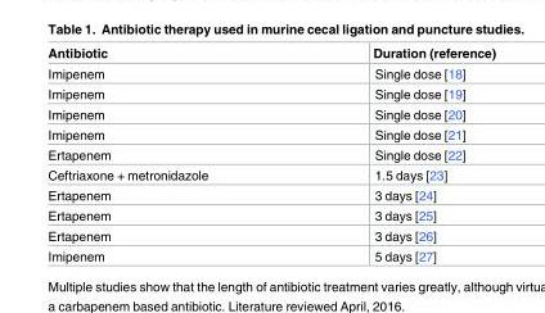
<table><thead><tr><td>Antibiotic</td><td>Duration (reference)</td></tr></thead><tbody><tr><td>Imipenem</td><td>Single dose [18]</td></tr><tr><td>Imipenem</td><td>Single dose [19]</td></tr><tr><td>Imipenem</td><td>Single dose [20]</td></tr><tr><td>Imipenem</td><td>Single dose [21]</td></tr><tr><td>Ertapenem</td><td>Single dose [22]</td></tr><tr><td>Ceftriaxone + metronidazole</td><td>1.5 days [23]</td></tr><tr><td>Ertapenem</td><td>3 days [24]</td></tr><tr><td>Ertapenem</td><td>3 days [25]</td></tr><tr><td>Ertapenem</td><td>3 days [26]</td></tr><tr><td>Imipenem</td><td>5 days [27]</td></tr></tbody></table>